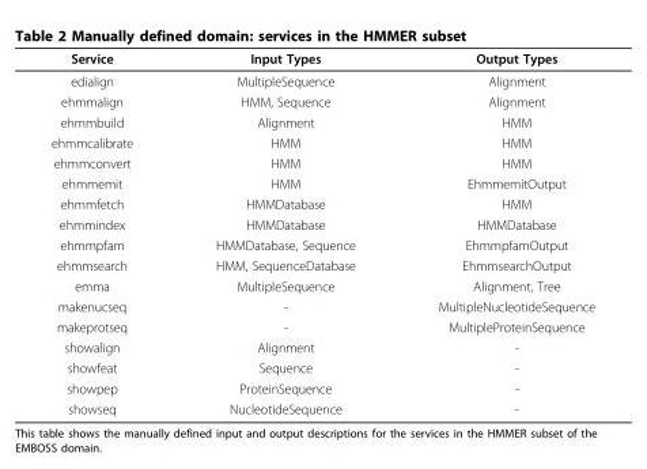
<table><thead><tr><td>Service</td><td>Input Types</td><td>Output Types</td></tr></thead><tbody><tr><td>edialign</td><td>MultipleSequence</td><td>Alignment</td></tr><tr><td>ehmmalign</td><td>HMM, Sequence</td><td>Alignment</td></tr><tr><td>ehmmbuild</td><td>Alignment</td><td>HMM</td></tr><tr><td>ehmmcalibrate</td><td>HMM</td><td>HMM</td></tr><tr><td>ehmmconvert</td><td>HMM</td><td>HMM</td></tr><tr><td>ehmmemit</td><td>HMM</td><td>EhmmemitOutput</td></tr><tr><td>ehmmfetch</td><td>HMMDatabase</td><td>HMM</td></tr><tr><td>ehmmindex</td><td>HMMDatabase</td><td>HMMDatabase</td></tr><tr><td>ehmmpfam</td><td>HMMDatabase, Sequence</td><td>EhmmpfamOutput</td></tr><tr><td>ehmmsearch</td><td>HMM, SequenceDatabase</td><td>EhmmsearchOutput</td></tr><tr><td>emma</td><td>MultipleSequence</td><td>Alignment, Tree</td></tr><tr><td>makenucseq</td><td>-</td><td>MultipleNucleotideSequence</td></tr><tr><td>makeprotseq</td><td>-</td><td>MultipleProteinSequence</td></tr><tr><td>showalign</td><td>Alignment</td><td>-</td></tr><tr><td>showfeat</td><td>Sequence</td><td>-</td></tr><tr><td>showpep</td><td>ProteinSequence</td><td>-</td></tr><tr><td>showseq</td><td>NucleotideSequence</td><td>-</td></tr></tbody></table>